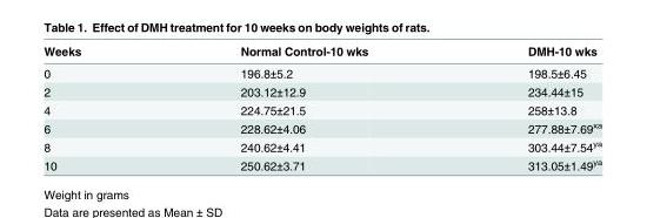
<table><thead><tr><td>Weeks</td><td>Normal Control-10 wks</td><td>DMH-10 wks</td></tr></thead><tbody><tr><td>0</td><td>196.8±5.2</td><td>198.5±6.45</td></tr><tr><td>2</td><td>203.12±12.9</td><td>234.44±15</td></tr><tr><td>4</td><td>224.75±21.5</td><td>258±13.8</td></tr><tr><td>6</td><td>228.62±4.06</td><td>277.88±7.69<sup>xa</sup></td></tr><tr><td>8</td><td>240.62±4.41</td><td>303.44±7.54<sup>ya</sup></td></tr><tr><td>10</td><td>250.62±3.71</td><td>313.05±1.49<sup>ya</sup></td></tr></tbody></table>